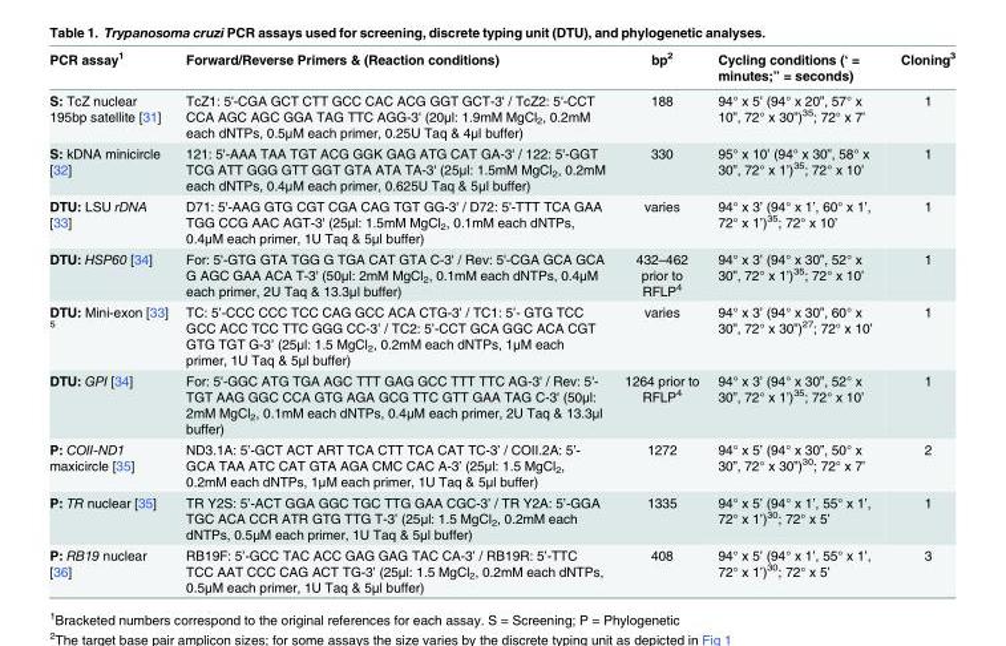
<table><thead><tr><td>PCR assay<sup>1</sup></td><td>Forward/Reverse Primers &amp; (Reaction conditions)</td><td>bp<sup>2</sup></td><td>Cycling conditions (‘ = minutes;” = seconds)</td><td>Cloning<sup>3</sup></td></tr></thead><tbody><tr><td>S: TcZ nuclear 195bp satellite [31]</td><td>TcZ1: 5&#x27;-CGA GCT CTT GCC CAC ACG GGT GCT-3&#x27; / TcZ2: 5&#x27;-CCT CCA AGC AGC GGA TAG TTC AGG-3&#x27; (20μl: 1.9mM MgCl<sub>2</sub>, 0.2mM each dNTPs, 0.5μM each primer, 0.25U Taq &amp; 4μl buffer)</td><td>188</td><td>94° x 5’ (94° x 20”, 57° x 10”, 72° x 30”)<sup>35</sup>; 72° x 7’</td><td>1</td></tr><tr><td>S: kDNA minicircle [32]</td><td>121: 5&#x27;-AAA TAA TGT ACG GGK GAG ATG CAT GA-3&#x27; / 122: 5&#x27;-GGT TCG ATT GGG GTT GGT GTA ATA TA-3&#x27; (25μl: 1.5mM MgCl<sub>2</sub>, 0.2mM each dNTPs, 0.4μM each primer, 0.625U Taq &amp; 5μl buffer)</td><td>330</td><td>95° x 10’ (94° x 30”, 58° x 30”, 72° x 1’)<sup>35</sup>; 72° x 10’</td><td>1</td></tr><tr><td>DTU: LSU rDNA [33]</td><td>D71: 5&#x27;-AAG GTG CGT CGA CAG TGT GG-3&#x27; / D72: 5&#x27;-TTT TCA GAA TGG CCG AAC AGT-3&#x27; (25μl: 1.5mM MgCl<sub>2</sub>, 0.1mM each dNTPs, 0.4μM each primer, 1U Taq &amp; 5μl buffer)</td><td>varies</td><td>94° x 3’ (94° x 1’, 60° x 1’, 72° x 1’)<sup>35</sup>; 72° x 10’</td><td>1</td></tr><tr><td>DTU: HSP60 [34]</td><td>For: 5&#x27;-GTG GTA TGG G TGA CAT GTA C-3&#x27; / Rev: 5&#x27;-CGA GCA GCA G AGC GAA ACA T-3&#x27; (50μl: 2mM MgCl<sub>2</sub>, 0.1mM each dNTPs, 0.4μM each primer, 2U Taq &amp; 13.3μl buffer)</td><td>432–462 prior to RFLP<sup>4</sup></td><td>94° x 3’ (94° x 30”, 52° x 30”, 72° x 1’)<sup>35</sup>; 72° x 10’</td><td>1</td></tr><tr><td>DTU: Mini-exon [33] <sup>5</sup></td><td>TC: 5’-CCC CCC TCC CAG GCC ACA CTG-3’ / TC1: 5’- GTG TCC GCC ACC TCC TTC GGG CC-3’ / TC2: 5’-CCT GCA GGC ACA CGT GTG TGT G-3’ (25μl: 1.5 MgCl<sub>2</sub>, 0.2mM each dNTPs, 1μM each primer, 1U Taq &amp; 5μl buffer)</td><td>varies</td><td>94° x 3’ (94° x 30”, 60° x 30”, 72° x 30”)<sup>27</sup>; 72° x 10’</td><td>1</td></tr><tr><td>DTU: GPI [34]</td><td>For: 5&#x27;-GGC ATG TGA AGC TTT GAG GCC TTT TTC AG-3&#x27; / Rev: 5&#x27;- TGT AAG GGC CCA GTG AGA GCG TTC GTT GAA TAG C-3&#x27; (50μl: 2mM MgCl<sub>2</sub>, 0.1mM each dNTPs, 0.4μM each primer, 2U Taq &amp; 13.3μl buffer)</td><td>1264 prior to RFLP<sup>4</sup></td><td>94° x 3’ (94° x 30”, 52° x 30”, 72° x 1’)<sup>35</sup>; 72° x 10’</td><td>1</td></tr><tr><td>P: COII-ND1 maxicircle [35]</td><td>ND3.1A: 5’-GCT ACT ART TCA CTT TCA CAT TC-3’ / COII.2A: 5’- GCA TAA ATC CAT GTA AGA CMC CAC A-3’ (25μl: 1.5 MgCl<sub>2</sub>, 0.2mM each dNTPs, 1μM each primer, 1U Taq &amp; 5μl buffer)</td><td>1272</td><td>94° x 5’ (94° x 30”, 50° x 30”, 72° x 30”)<sup>30</sup>; 72° x 7’</td><td>2</td></tr><tr><td>P: TR nuclear [35]</td><td>TR Y2S: 5’-ACT GGA GGC TGC TTG GAA CGC-3’ / TR Y2A: 5’-GGA TGC ACA CCR ATR GTG TTG T-3’ (25μl: 1.5 MgCl<sub>2</sub>, 0.2mM each dNTPs, 0.5μM each primer, 1U Taq &amp; 5μl buffer)</td><td>1335</td><td>94° x 5’ (94° x 1’, 55° x 1’, 72° x 1’)<sup>30</sup>; 72° x 5’</td><td>1</td></tr><tr><td>P: RB19 nuclear [36]</td><td>RB19F: 5’-GCC TAC ACC GAG GAG TAC CA-3’ / RB19R: 5’-TTC TCC AAT CCC CAG ACT TG-3’ (25μl: 1.5 MgCl<sub>2</sub>, 0.2mM each dNTPs, 0.5μM each primer, 1U Taq &amp; 5μl buffer)</td><td>408</td><td>94° x 5’ (94° x 1’, 55° x 1’, 72° x 1’)<sup>30</sup>; 72° x 5’</td><td>3</td></tr></tbody></table>